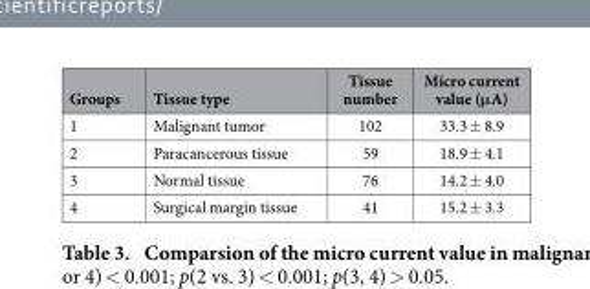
<table><thead><tr><td>Groups</td><td>Tissue type</td><td>Tissue number</td><td>Micro current value (μA)</td></tr></thead><tbody><tr><td>1</td><td>Malignant tumor</td><td>102</td><td>33.3 ± 8.9</td></tr><tr><td>2</td><td>Paracancerous tissue</td><td>59</td><td>18.9 ± 4.1</td></tr><tr><td>3</td><td>Normal tissue</td><td>76</td><td>14.2 ± 4.0</td></tr><tr><td>4</td><td>Surgical margin tissue</td><td>41</td><td>15.2 ± 3.3</td></tr></tbody></table>